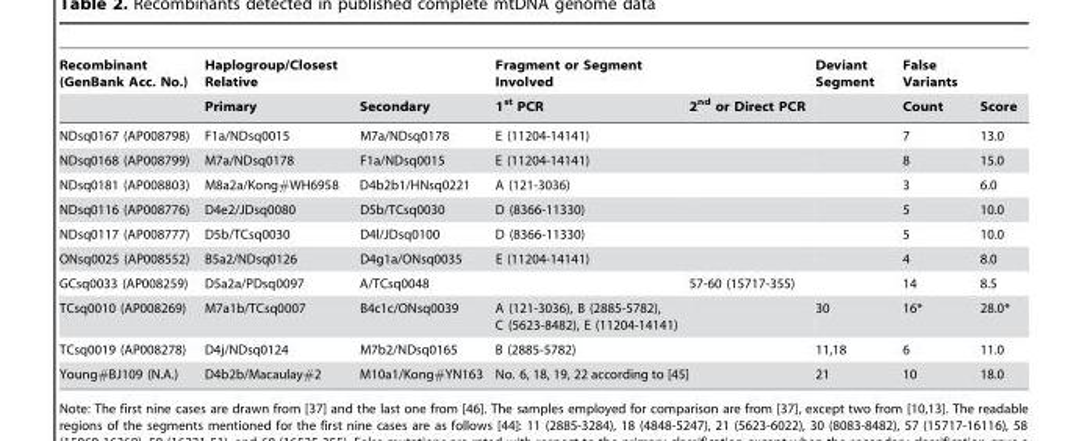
<table><thead><tr><td rowspan="2">Recombinant (GenBank Acc. No.)</td><td rowspan="2">Haplogroup/Closest Relative Primary</td><td rowspan="2">Secondary</td><td rowspan="2">Fragment or Segment Involved 1<sup>st</sup> PCR</td><td rowspan="2">2<sup>nd</sup> or Direct PCR</td><td rowspan="2">Deviant Segment</td><td rowspan="2">False Variants Count</td><td rowspan="2">Score</td></tr><tr></tr></thead><tbody><tr><td>NDsq0167 (AP008798)</td><td>F1a/NDsq0015</td><td>M7a/NDsq0178</td><td>E (11204-14141)</td><td></td><td></td><td>7</td><td>13.0</td></tr><tr><td>NDsq0168 (AP008799)</td><td>M7a/NDsq0178</td><td>F1a/NDsq0015</td><td>E (11204-14141)</td><td></td><td></td><td>8</td><td>15.0</td></tr><tr><td>NDsq0181 (AP008803)</td><td>M8a2a/Kong#WH6958</td><td>D4b2b1/HNsq0221</td><td>A (121-3036)</td><td></td><td></td><td>3</td><td>6.0</td></tr><tr><td>NDsq0116 (AP008776)</td><td>D4e2/JDsq0080</td><td>D5b/TCsq0030</td><td>D (8366-11330)</td><td></td><td></td><td>5</td><td>10.0</td></tr><tr><td>NDsq0117 (AP008777)</td><td>D5b/TCsq0030</td><td>D4l/JDsq0100</td><td>D (8366-11330)</td><td></td><td></td><td>5</td><td>10.0</td></tr><tr><td>ONsq0025 (AP008552)</td><td>B5a2/NDsq0126</td><td>D4g1a/ONsq0035</td><td>E (11204-14141)</td><td></td><td></td><td>4</td><td>8.0</td></tr><tr><td>GCsq0033 (AP008259)</td><td>D5a2a/PDsq0097</td><td>A/TCsq0048</td><td></td><td>57-60 (15717-355)</td><td></td><td>14</td><td>8.5</td></tr><tr><td>TCsq0010 (AP008269)</td><td>M7a1b/TCsq0007</td><td>B4c1c/ONsq0039</td><td>A (121-3036), B (2885-5782), C (5623-8482), E (11204-14141)</td><td></td><td>30</td><td>16*</td><td>28.0*</td></tr><tr><td>TCsq0019 (AP008278)</td><td>D4j/NDsq0124</td><td>M7b2/NDsq0165</td><td>B (2885-5782)</td><td></td><td>11,18</td><td>6</td><td>11.0</td></tr><tr><td>Young#BJ109 (N.A.)</td><td>D4b2b/Macaulay#2</td><td>M10a1/Kong#YN163</td><td>No. 6, 18, 19, 22 according to [45]</td><td></td><td>21</td><td>10</td><td>18.0</td></tr></tbody></table>